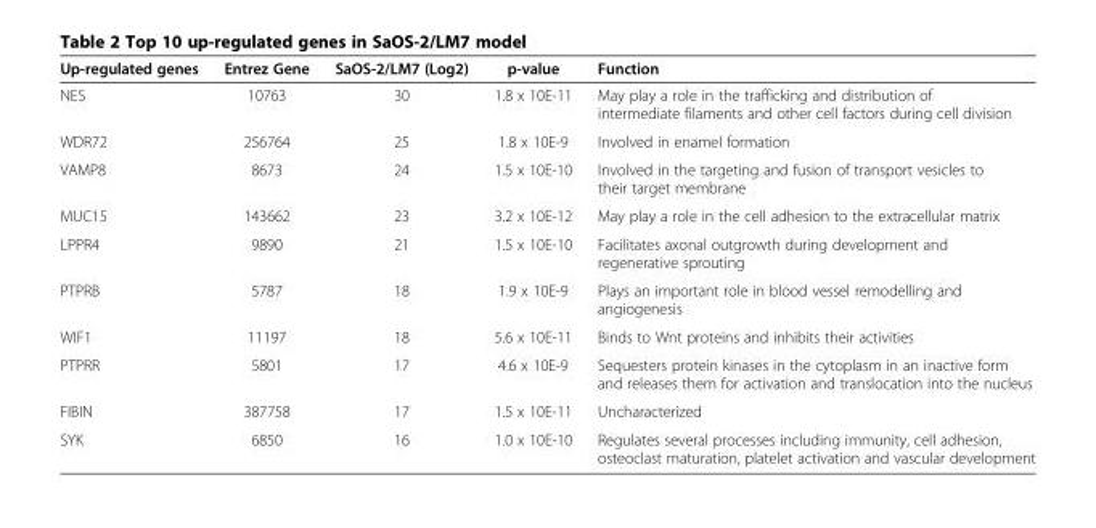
<table><thead><tr><td>Up-regulated genes</td><td>Entrez Gene</td><td>SaOS-2/LM7 (Log2)</td><td>p-value</td><td>Function</td></tr></thead><tbody><tr><td>NES</td><td>10763</td><td>30</td><td>1.8 x 10E-11</td><td>May play a role in the trafficking and distribution of intermediate filaments and other cell factors during cell division</td></tr><tr><td>WDR72</td><td>256764</td><td>25</td><td>1.8 x 10E-9</td><td>Involved in enamel formation</td></tr><tr><td>VAMP8</td><td>8673</td><td>24</td><td>1.5 x 10E-10</td><td>Involved in the targeting and fusion of transport vesicles to their target membrane</td></tr><tr><td>MUC15</td><td>143662</td><td>23</td><td>3.2 x 10E-12</td><td>May play a role in the cell adhesion to the extracellular matrix</td></tr><tr><td>LPPR4</td><td>9890</td><td>21</td><td>1.5 x 10E-10</td><td>Facilitates axonal outgrowth during development and regenerative sprouting</td></tr><tr><td>PTPRB</td><td>5787</td><td>18</td><td>1.9 x 10E-9</td><td>Plays an important role in blood vessel remodelling and angiogenesis</td></tr><tr><td>WIF1</td><td>11197</td><td>18</td><td>5.6 x 10E-11</td><td>Binds to Wnt proteins and inhibits their activities</td></tr><tr><td>PTPRR</td><td>5801</td><td>17</td><td>4.6 x 10E-9</td><td>Sequesters protein kinases in the cytoplasm in an inactive form and releases them for activation and translocation into the nucleus</td></tr><tr><td>FIBIN</td><td>387758</td><td>17</td><td>1.5 x 10E-11</td><td>Uncharacterized</td></tr><tr><td>SYK</td><td>6850</td><td>16</td><td>1.0 x 10E-10</td><td>Regulates several processes including immunity, cell adhesion, osteoclast maturation, platelet activation and vascular development</td></tr></tbody></table>